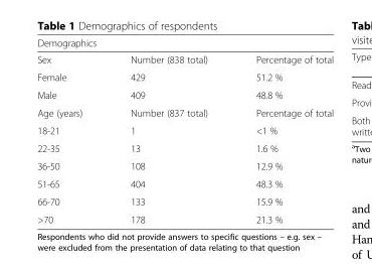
<table><thead><tr><td colspan="3">Demographics</td></tr><tr><td>Sex</td><td>Number (838 total)</td><td>Percentage of total</td></tr></thead><tbody><tr><td>Female</td><td>429</td><td>51.2 %</td></tr><tr><td>Male</td><td>409</td><td>48.8 %</td></tr><tr><td>Age (years)</td><td>Number (837 total)</td><td>Percentage of total</td></tr><tr><td>18-21</td><td>1</td><td>&lt;1 %</td></tr><tr><td>22-35</td><td>13</td><td>1.6 %</td></tr><tr><td>36-50</td><td>108</td><td>12.9 %</td></tr><tr><td>51-65</td><td>404</td><td>48.3 %</td></tr><tr><td>66-70</td><td>133</td><td>15.9 %</td></tr><tr><td>&gt;70</td><td>178</td><td>21.3 %</td></tr></tbody></table>